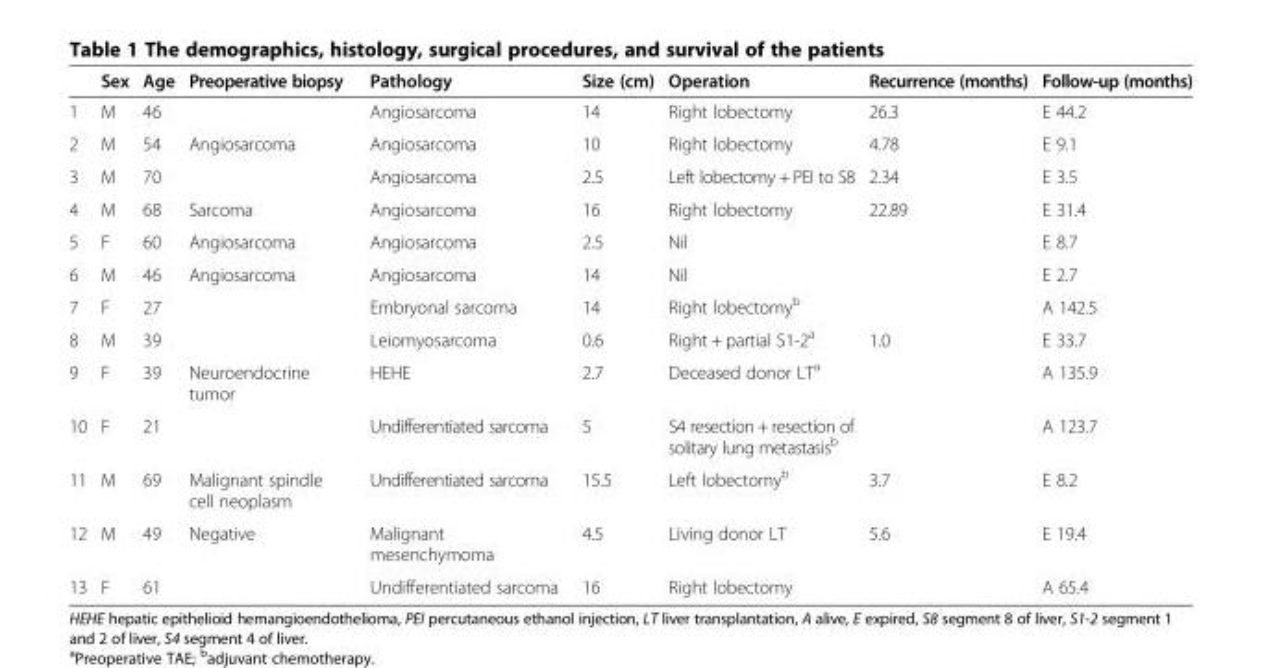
<table><thead><tr><td></td><td>Sex</td><td>Age</td><td>Preoperative biopsy</td><td>Pathology</td><td>Size (cm)</td><td>Operation</td><td>Recurrence (months)</td><td>Follow-up (months)</td></tr></thead><tbody><tr><td>1</td><td>M</td><td>46</td><td></td><td>Angiosarcoma</td><td>14</td><td>Right lobectomy</td><td>26.3</td><td>E 44.2</td></tr><tr><td>2</td><td>M</td><td>54</td><td>Angiosarcoma</td><td>Angiosarcoma</td><td>10</td><td>Right lobectomy</td><td>4.78</td><td>E 9.1</td></tr><tr><td>3</td><td>M</td><td>70</td><td></td><td>Angiosarcoma</td><td>2.5</td><td>Left lobectomy + PEI to S8</td><td>2.34</td><td>E 3.5</td></tr><tr><td>4</td><td>M</td><td>68</td><td>Sarcoma</td><td>Angiosarcoma</td><td>16</td><td>Right lobectomy</td><td>22.89</td><td>E 31.4</td></tr><tr><td>5</td><td>F</td><td>60</td><td>Angiosarcoma</td><td>Angiosarcoma</td><td>2.5</td><td>Nil</td><td></td><td>E 8.7</td></tr><tr><td>6</td><td>M</td><td>46</td><td>Angiosarcoma</td><td>Angiosarcoma</td><td>14</td><td>Nil</td><td></td><td>E 2.7</td></tr><tr><td>7</td><td>F</td><td>27</td><td></td><td>Embryonal sarcoma</td><td>14</td><td>Right lobectomy<sup>b</sup></td><td></td><td>A 142.5</td></tr><tr><td>8</td><td>M</td><td>39</td><td></td><td>Leiomyosarcoma</td><td>0.6</td><td>Right + partial S1-2<sup>a</sup></td><td>1.0</td><td>E 33.7</td></tr><tr><td>9</td><td>F</td><td>39</td><td>Neuroendocrine tumor</td><td>HEHE</td><td>2.7</td><td>Deceased donor LT<sup>a</sup></td><td></td><td>A 135.9</td></tr><tr><td>10</td><td>F</td><td>21</td><td></td><td>Undifferentiated sarcoma</td><td>5</td><td>S4 resection + resection of solitary lung metastasis<sup>b</sup></td><td></td><td>A 123.7</td></tr><tr><td>11</td><td>M</td><td>69</td><td>Malignant spindle cell neoplasm</td><td>Undifferentiated sarcoma</td><td>15.5</td><td>Left lobectomy<sup>b</sup></td><td>3.7</td><td>E 8.2</td></tr><tr><td>12</td><td>M</td><td>49</td><td>Negative</td><td>Malignant mesenchymoma</td><td>4.5</td><td>Living donor LT</td><td>5.6</td><td>E 19.4</td></tr><tr><td>13</td><td>F</td><td>61</td><td></td><td>Undifferentiated sarcoma</td><td>16</td><td>Right lobectomy</td><td></td><td>A 65.4</td></tr></tbody></table>